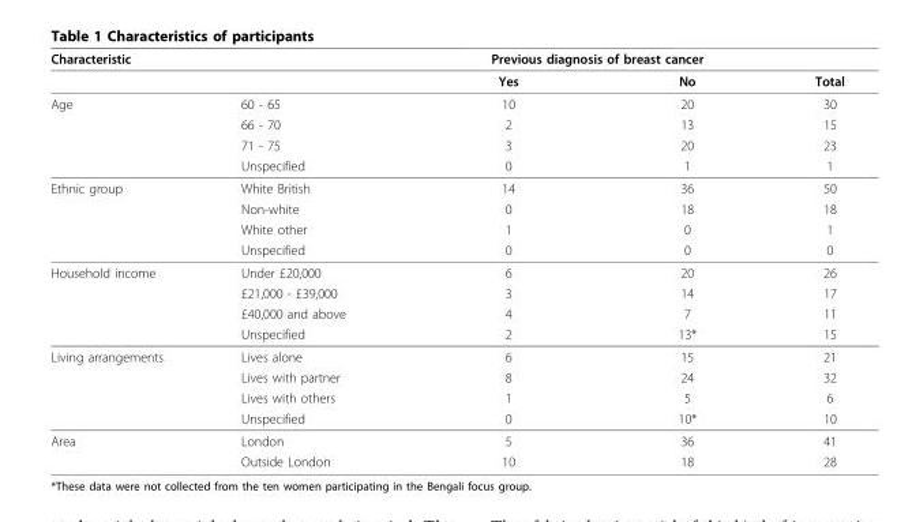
<table><thead><tr><td rowspan="2">Characteristic</td><td rowspan="2"></td><td colspan="2">Previous diagnosis of breast cancer</td><td rowspan="2">Total</td></tr><tr><td>Yes</td><td>No</td></tr></thead><tbody><tr><td rowspan="4">Age</td><td>60 - 65</td><td>10</td><td>20</td><td>30</td></tr><tr><td>66 - 70</td><td>2</td><td>13</td><td>15</td></tr><tr><td>71 - 75</td><td>3</td><td>20</td><td>23</td></tr><tr><td>Unspecified</td><td>0</td><td>1</td><td>1</td></tr><tr><td rowspan="4">Ethnic group</td><td>White British</td><td>14</td><td>36</td><td>50</td></tr><tr><td>Non-white</td><td>0</td><td>18</td><td>18</td></tr><tr><td>White other</td><td>1</td><td>0</td><td>1</td></tr><tr><td>Unspecified</td><td>0</td><td>0</td><td>0</td></tr><tr><td rowspan="4">Household income</td><td>Under £20,000</td><td>6</td><td>20</td><td>26</td></tr><tr><td>£21,000 - £39,000</td><td>3</td><td>14</td><td>17</td></tr><tr><td>£40,000 and above</td><td>4</td><td>7</td><td>11</td></tr><tr><td>Unspecified</td><td>2</td><td>13*</td><td>15</td></tr><tr><td rowspan="4">Living arrangements</td><td>Lives alone</td><td>6</td><td>15</td><td>21</td></tr><tr><td>Lives with partner</td><td>8</td><td>24</td><td>32</td></tr><tr><td>Lives with others</td><td>1</td><td>5</td><td>6</td></tr><tr><td>Unspecified</td><td>0</td><td>10*</td><td>10</td></tr><tr><td rowspan="2">Area</td><td>London</td><td>5</td><td>36</td><td>41</td></tr><tr><td>Outside London</td><td>10</td><td>18</td><td>28</td></tr></tbody></table>